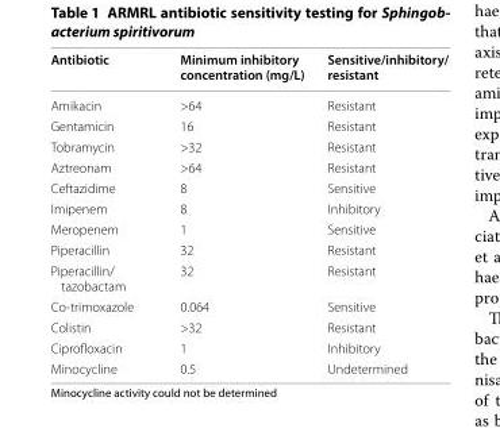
<table><thead><tr><td>Antibiotic</td><td>Minimum inhibitory concentration (mg/L)</td><td>Sensitive/inhibitory/ resistant</td></tr></thead><tbody><tr><td>Amikacin</td><td>&gt;64</td><td>Resistant</td></tr><tr><td>Gentamicin</td><td>16</td><td>Resistant</td></tr><tr><td>Tobramycin</td><td>&gt;32</td><td>Resistant</td></tr><tr><td>Aztreonam</td><td>&gt;64</td><td>Resistant</td></tr><tr><td>Ceftazidime</td><td>8</td><td>Sensitive</td></tr><tr><td>Imipenem</td><td>8</td><td>Inhibitory</td></tr><tr><td>Meropenem</td><td>1</td><td>Sensitive</td></tr><tr><td>Piperacillin</td><td>32</td><td>Resistant</td></tr><tr><td>Piperacillin/ tazobactam</td><td>32</td><td>Resistant</td></tr><tr><td>Co‑trimoxazole</td><td>0.064</td><td>Sensitive</td></tr><tr><td>Colistin</td><td>&gt;32</td><td>Resistant</td></tr><tr><td>Ciprofloxacin</td><td>1</td><td>Inhibitory</td></tr><tr><td>Minocycline</td><td>0.5</td><td>Undetermined</td></tr></tbody></table>